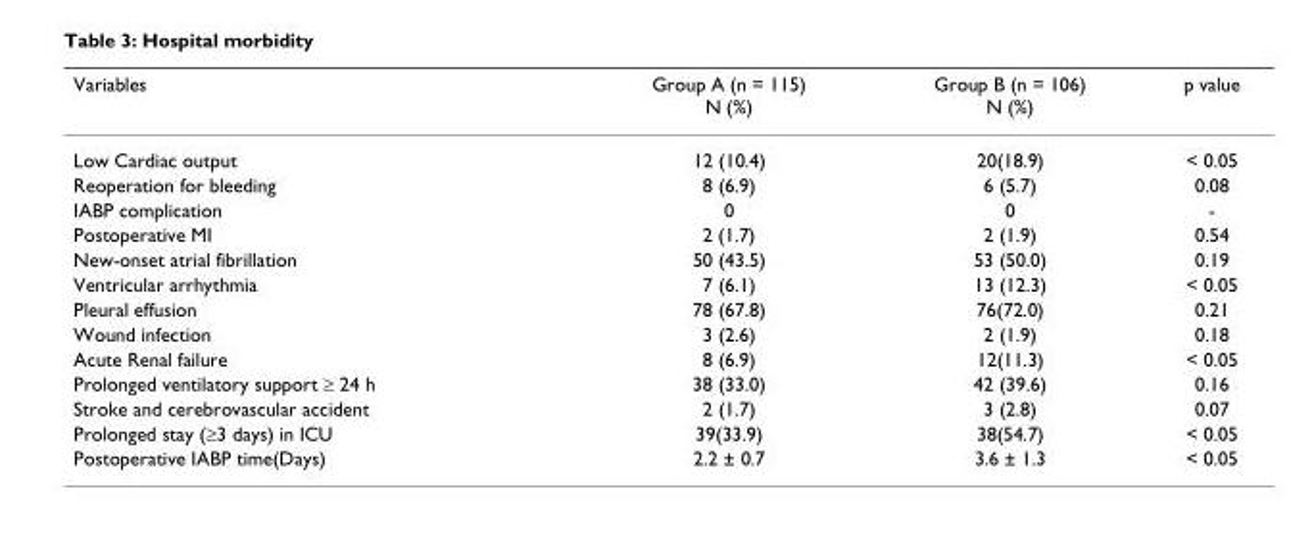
<table><thead><tr><td>Variables</td><td>Group A (n = 115) N (%)</td><td>Group B (n = 106) N (%)</td><td>p value</td></tr></thead><tbody><tr><td>Low Cardiac output</td><td>12 (10.4)</td><td>20(18.9)</td><td>&lt; 0.05</td></tr><tr><td>Reoperation for bleeding</td><td>8 (6.9)</td><td>6 (5.7)</td><td>0.08</td></tr><tr><td>IABP complication</td><td>0</td><td>0</td><td>-</td></tr><tr><td>Postoperative MI</td><td>2 (1.7)</td><td>2 (1.9)</td><td>0.54</td></tr><tr><td>New-onset atrial fibrillation</td><td>50 (43.5)</td><td>53 (50.0)</td><td>0.19</td></tr><tr><td>Ventricular arrhythmia</td><td>7 (6.1)</td><td>13 (12.3)</td><td>&lt; 0.05</td></tr><tr><td>Pleural effusion</td><td>78 (67.8)</td><td>76(72.0)</td><td>0.21</td></tr><tr><td>Wound infection</td><td>3 (2.6)</td><td>2 (1.9)</td><td>0.18</td></tr><tr><td>Acute Renal failure</td><td>8 (6.9)</td><td>12(11.3)</td><td>&lt; 0.05</td></tr><tr><td>Prolonged ventilatory support ≥ 24 h</td><td>38 (33.0)</td><td>42 (39.6)</td><td>0.16</td></tr><tr><td>Stroke and cerebrovascular accident</td><td>2 (1.7)</td><td>3 (2.8)</td><td>0.07</td></tr><tr><td>Prolonged stay (≥3 days) in ICU</td><td>39(33.9)</td><td>38(54.7)</td><td>&lt; 0.05</td></tr><tr><td>Postoperative IABP time(Days)</td><td>2.2 ± 0.7</td><td>3.6 ± 1.3</td><td>&lt; 0.05</td></tr></tbody></table>